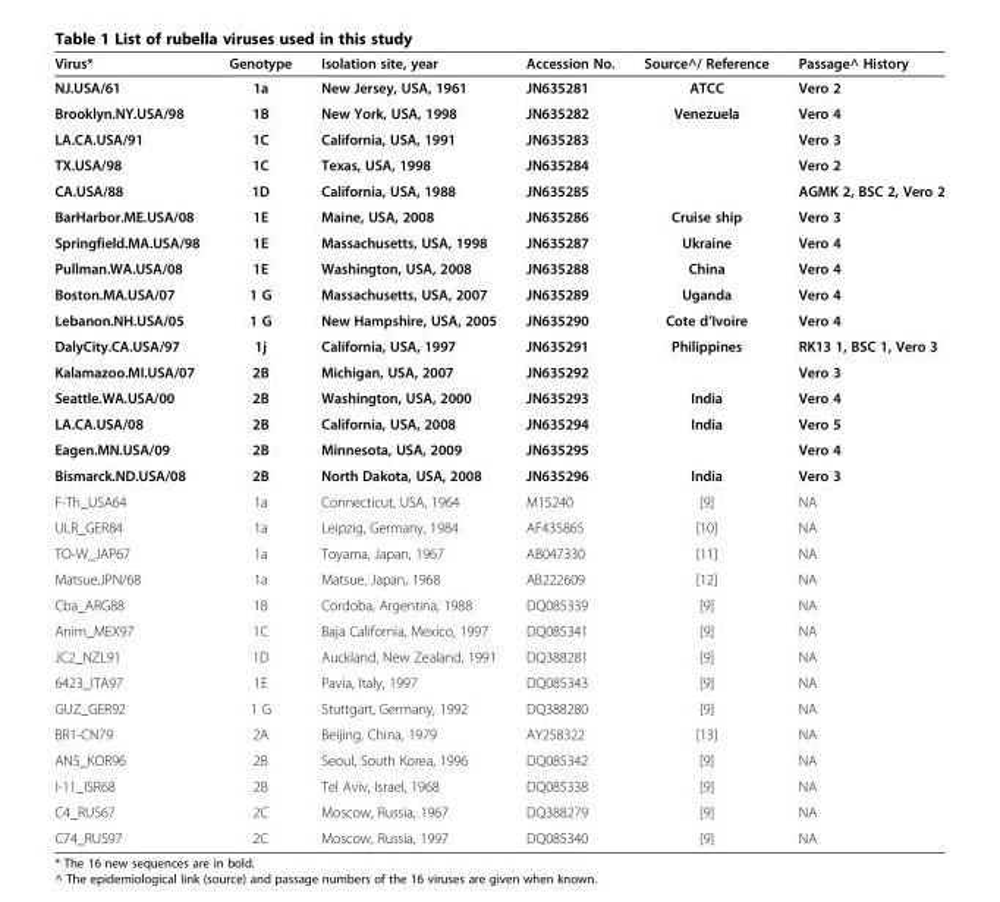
<table><thead><tr><td>Virus*</td><td>Genotype</td><td>Isolation site, year</td><td>Accession No.</td><td>Source^/ Reference</td><td>Passage^ History</td></tr></thead><tbody><tr><td>NJ.USA/61</td><td>1a</td><td>New Jersey, USA, 1961</td><td>JN635281</td><td>ATCC</td><td>Vero 2</td></tr><tr><td>Brooklyn.NY.USA/98</td><td>1B</td><td>New York, USA, 1998</td><td>JN635282</td><td>Venezuela</td><td>Vero 4</td></tr><tr><td>LA.CA.USA/91</td><td>1C</td><td>California, USA, 1991</td><td>JN635283</td><td></td><td>Vero 3</td></tr><tr><td>TX.USA/98</td><td>1C</td><td>Texas, USA, 1998</td><td>JN635284</td><td></td><td>Vero 2</td></tr><tr><td>CA.USA/88</td><td>1D</td><td>California, USA, 1988</td><td>JN635285</td><td></td><td>AGMK 2, BSC 2, Vero 2</td></tr><tr><td>BarHarbor.ME.USA/08</td><td>1E</td><td>Maine, USA, 2008</td><td>JN635286</td><td>Cruise ship</td><td>Vero 3</td></tr><tr><td>Springfield.MA.USA/98</td><td>1E</td><td>Massachusetts, USA, 1998</td><td>JN635287</td><td>Ukraine</td><td>Vero 4</td></tr><tr><td>Pullman.WA.USA/08</td><td>1E</td><td>Washington, USA, 2008</td><td>JN635288</td><td>China</td><td>Vero 4</td></tr><tr><td>Boston.MA.USA/07</td><td>1 G</td><td>Massachusetts, USA, 2007</td><td>JN635289</td><td>Uganda</td><td>Vero 4</td></tr><tr><td>Lebanon.NH.USA/05</td><td>1 G</td><td>New Hampshire, USA, 2005</td><td>JN635290</td><td>Cote d’Ivoire</td><td>Vero 4</td></tr><tr><td>DalyCity.CA.USA/97</td><td>1j</td><td>California, USA, 1997</td><td>JN635291</td><td>Philippines</td><td>RK13 1, BSC 1, Vero 3</td></tr><tr><td>Kalamazoo.MI.USA/07</td><td>2B</td><td>Michigan, USA, 2007</td><td>JN635292</td><td></td><td>Vero 3</td></tr><tr><td>Seattle.WA.USA/00</td><td>2B</td><td>Washington, USA, 2000</td><td>JN635293</td><td>India</td><td>Vero 4</td></tr><tr><td>LA.CA.USA/08</td><td>2B</td><td>California, USA, 2008</td><td>JN635294</td><td>India</td><td>Vero 5</td></tr><tr><td>Eagen.MN.USA/09</td><td>2B</td><td>Minnesota, USA, 2009</td><td>JN635295</td><td></td><td>Vero 4</td></tr><tr><td>Bismarck.ND.USA/08</td><td>2B</td><td>North Dakota, USA, 2008</td><td>JN635296</td><td>India</td><td>Vero 3</td></tr><tr><td>F-Th_USA64</td><td>1a</td><td>Connecticut, USA, 1964</td><td>M15240</td><td>[9]</td><td>NA</td></tr><tr><td>ULR_GER84</td><td>1a</td><td>Leipzig, Germany, 1984</td><td>AF435865</td><td>[10]</td><td>NA</td></tr><tr><td>TO-W_JAP67</td><td>1a</td><td>Toyama, Japan, 1967</td><td>AB047330</td><td>[11]</td><td>NA</td></tr><tr><td>Matsue.JPN/68</td><td>1a</td><td>Matsue, Japan, 1968</td><td>AB222609</td><td>[12]</td><td>NA</td></tr><tr><td>Cba_ARG88</td><td>1B</td><td>Cordoba, Argentina, 1988</td><td>DQ085339</td><td>[9]</td><td>NA</td></tr><tr><td>Anim_MEX97</td><td>1C</td><td>Baja California, Mexico, 1997</td><td>DQ085341</td><td>[9]</td><td>NA</td></tr><tr><td>JC2_NZL91</td><td>1D</td><td>Auckland, New Zealand, 1991</td><td>DQ388281</td><td>[9]</td><td>NA</td></tr><tr><td>6423_ITA97</td><td>1E</td><td>Pavia, Italy, 1997</td><td>DQ085343</td><td>[9]</td><td>NA</td></tr><tr><td>GUZ_GER92</td><td>1 G</td><td>Stuttgart, Germany, 1992</td><td>DQ388280</td><td>[9]</td><td>NA</td></tr><tr><td>BR1-CN79</td><td>2A</td><td>Beijing, China, 1979</td><td>AY258322</td><td>[13]</td><td>NA</td></tr><tr><td>AN5_KOR96</td><td>2B</td><td>Seoul, South Korea, 1996</td><td>DQ085342</td><td>[9]</td><td>NA</td></tr><tr><td>I-11_ISR68</td><td>2B</td><td>Tel Aviv, Israel, 1968</td><td>DQ085338</td><td>[9]</td><td>NA</td></tr><tr><td>C4_RUS67</td><td>2C</td><td>Moscow, Russia, 1967</td><td>DQ388279</td><td>[9]</td><td>NA</td></tr><tr><td>C74_RUS97</td><td>2C</td><td>Moscow, Russia, 1997</td><td>DQ085340</td><td>[9]</td><td>NA</td></tr></tbody></table>